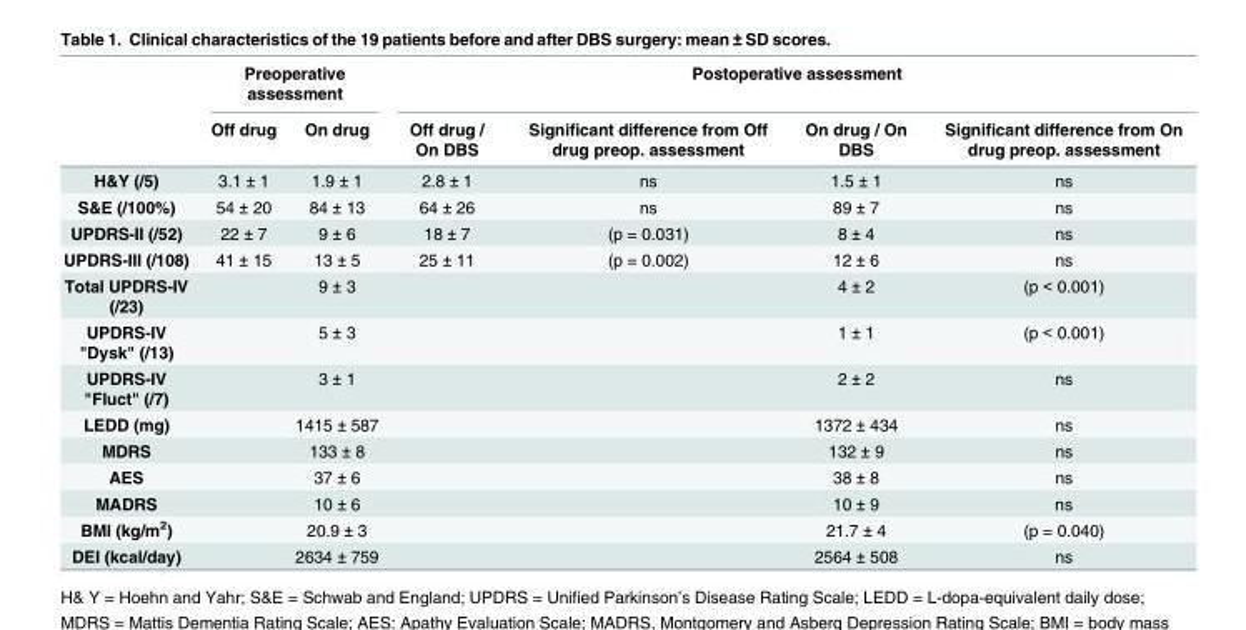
<table><thead><tr><td rowspan="2"></td><td colspan="2">Preoperative assessment</td><td colspan="4">Postoperative assessment</td></tr><tr><td>Off drug</td><td>On drug</td><td>Off drug / On DBS</td><td>Significant difference from Off drug preop. assessment</td><td>On drug / On DBS</td><td>Significant difference from On drug preop. assessment</td></tr></thead><tbody><tr><td>H&amp;Y (/5)</td><td>3.1 ± 1</td><td>1.9 ± 1</td><td>2.8 ± 1</td><td>ns</td><td>1.5 ± 1</td><td>ns</td></tr><tr><td>S&amp;E (/100%)</td><td>54 ± 20</td><td>84 ± 13</td><td>64 ± 26</td><td>ns</td><td>89 ± 7</td><td>ns</td></tr><tr><td>UPDRS-II (/52)</td><td>22 ± 7</td><td>9 ± 6</td><td>18 ± 7</td><td>(p = 0.031)</td><td>8 ± 4</td><td>ns</td></tr><tr><td>UPDRS-III (/108)</td><td>41 ± 15</td><td>13 ± 5</td><td>25 ± 11</td><td>(p = 0.002)</td><td>12 ± 6</td><td>ns</td></tr><tr><td>Total UPDRS-IV (/23)</td><td></td><td>9 ± 3</td><td></td><td></td><td>4 ± 2</td><td>(p &lt; 0.001)</td></tr><tr><td>UPDRS-IV &quot;Dysk&quot; (/13)</td><td></td><td>5 ± 3</td><td></td><td></td><td>1 ± 1</td><td>(p &lt; 0.001)</td></tr><tr><td>UPDRS-IV &quot;Fluct&quot; (/7)</td><td></td><td>3 ± 1</td><td></td><td></td><td>2 ± 2</td><td>ns</td></tr><tr><td>LEDD (mg)</td><td></td><td>1415 ± 587</td><td></td><td></td><td>1372 ± 434</td><td>ns</td></tr><tr><td>MDRS</td><td></td><td>133 ± 8</td><td></td><td></td><td>132 ± 9</td><td>ns</td></tr><tr><td>AES</td><td></td><td>37 ± 6</td><td></td><td></td><td>38 ± 8</td><td>ns</td></tr><tr><td>MADRS</td><td></td><td>10 ± 6</td><td></td><td></td><td>10 ± 9</td><td>ns</td></tr><tr><td>BMI (kg/m<sup>2</sup>)</td><td></td><td>20.9 ± 3</td><td></td><td></td><td>21.7 ± 4</td><td>(p = 0.040)</td></tr><tr><td>DEI (kcal/day)</td><td></td><td>2634 ± 759</td><td></td><td></td><td>2564 ± 508</td><td>ns</td></tr></tbody></table>